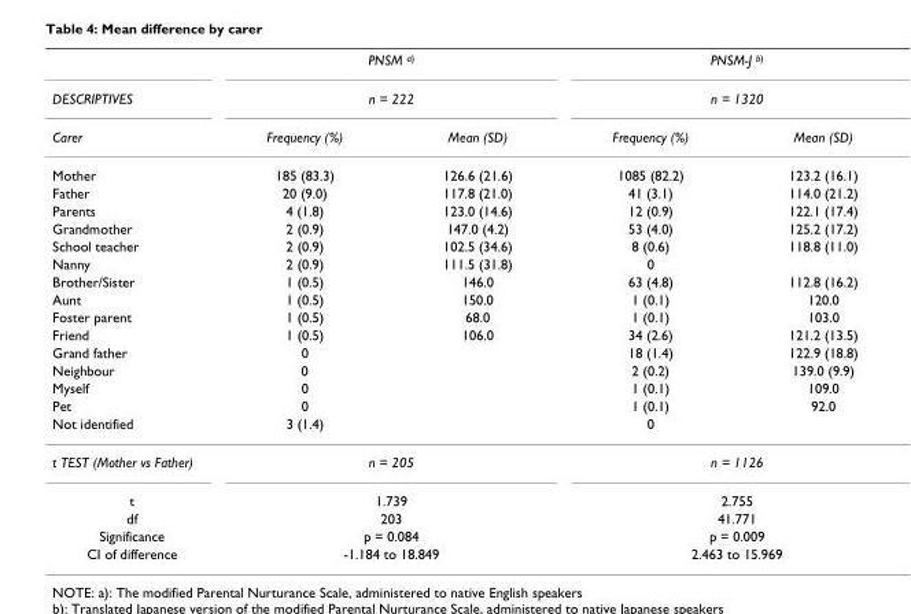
<table><thead><tr><td rowspan="3">DESCRIPTIVES Carer</td><td rowspan="2" colspan="2">PNSM <sup>a)</sup> n = 222</td><td rowspan="2" colspan="2">PNSM-J <sup>b)</sup> n = 1320</td></tr><tr></tr><tr><td>Frequency (%)</td><td>Mean (SD)</td><td>Frequency (%)</td><td>Mean (SD)</td></tr></thead><tbody><tr><td>Mother</td><td>185 (83.3)</td><td>126.6 (21.6)</td><td>1085 (82.2)</td><td>123.2 (16.1)</td></tr><tr><td>Father</td><td>20 (9.0)</td><td>117.8 (21.0)</td><td>41 (3.1)</td><td>114.0 (21.2)</td></tr><tr><td>Parents</td><td>4 (1.8)</td><td>123.0 (14.6)</td><td>12 (0.9)</td><td>122.1 (17.4)</td></tr><tr><td>Grandmother</td><td>2 (0.9)</td><td>147.0 (4.2)</td><td>53 (4.0)</td><td>125.2 (17.2)</td></tr><tr><td>School teacher</td><td>2 (0.9)</td><td>102.5 (34.6)</td><td>8 (0.6)</td><td>118.8 (11.0)</td></tr><tr><td>Nanny</td><td>2 (0.9)</td><td>111.5 (31.8)</td><td>0</td><td></td></tr><tr><td>Brother/Sister</td><td>1 (0.5)</td><td>146.0</td><td>63 (4.8)</td><td>112.8 (16.2)</td></tr><tr><td>Aunt</td><td>1 (0.5)</td><td>150.0</td><td>1 (0.1)</td><td>120.0</td></tr><tr><td>Foster parent</td><td>1 (0.5)</td><td>68.0</td><td>1 (0.1)</td><td>103.0</td></tr><tr><td>Friend</td><td>1 (0.5)</td><td>106.0</td><td>34 (2.6)</td><td>121.2 (13.5)</td></tr><tr><td>Grand father</td><td>0</td><td></td><td>18 (1.4)</td><td>122.9 (18.8)</td></tr><tr><td>Neighbour</td><td>0</td><td></td><td>2 (0.2)</td><td>139.0 (9.9)</td></tr><tr><td>Myself</td><td>0</td><td></td><td>1 (0.1)</td><td>109.0</td></tr><tr><td>Pet</td><td>0</td><td></td><td>1 (0.1)</td><td>92.0</td></tr><tr><td>Not identified</td><td>3 (1.4)</td><td></td><td>0</td><td></td></tr><tr><td>t TEST (Mother vs Father)</td><td colspan="2">n = 205</td><td colspan="2">n = 1126</td></tr><tr><td>t</td><td colspan="2">1.739</td><td colspan="2">2.755</td></tr><tr><td>df</td><td colspan="2">203</td><td colspan="2">41.771</td></tr><tr><td>Significance</td><td colspan="2">p = 0.084</td><td colspan="2">p = 0.009</td></tr><tr><td>CI of difference</td><td colspan="2">-1.184 to 18.849</td><td colspan="2">2.463 to 15.969</td></tr></tbody></table>